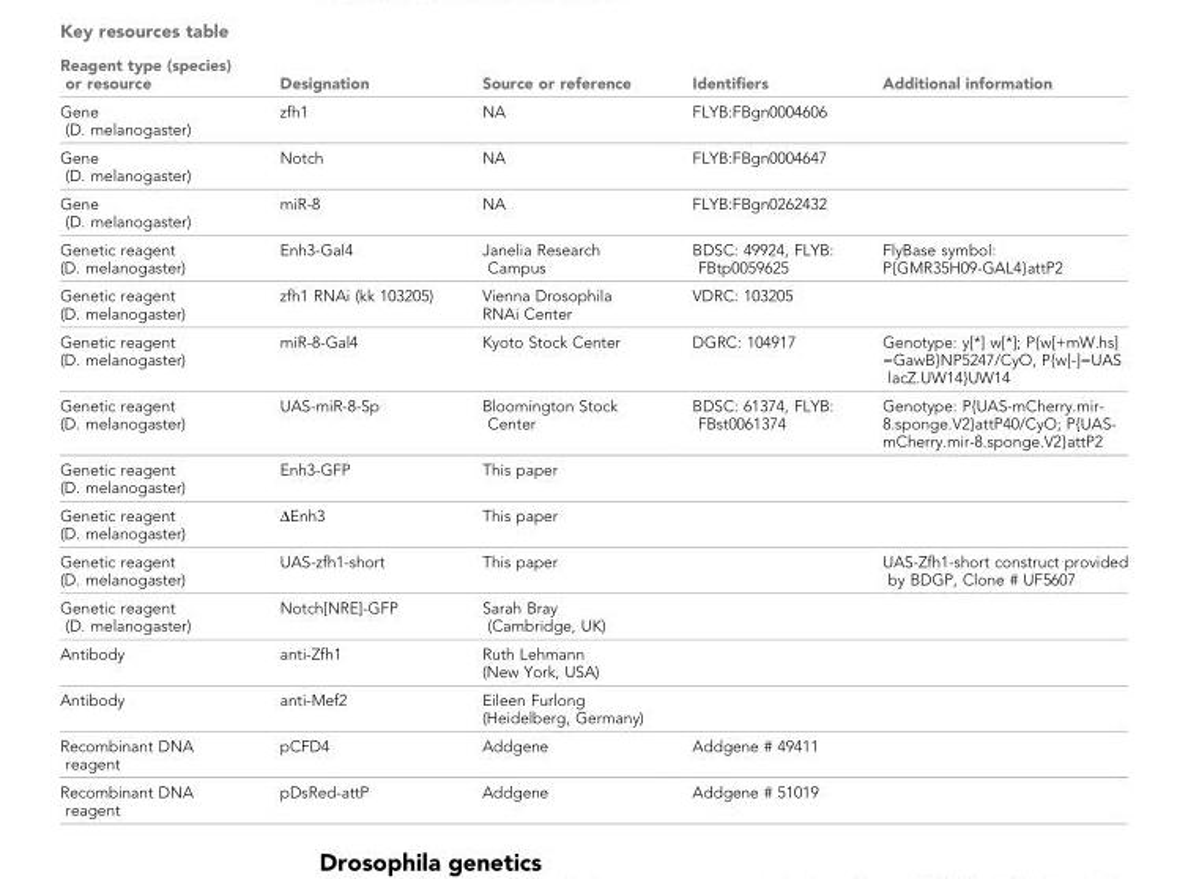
<table><thead><tr><td>Reagent type (species) or resource</td><td>Designation</td><td>Source or reference</td><td>Identifiers</td><td>Additional information</td></tr></thead><tbody><tr><td>Gene (D. melanogaster)</td><td>zfh1</td><td>NA</td><td>FLYB:FBgn0004606</td><td></td></tr><tr><td>Gene (D. melanogaster)</td><td>Notch</td><td>NA</td><td>FLYB:FBgn0004647</td><td></td></tr><tr><td>Gene (D. melanogaster)</td><td>miR-8</td><td>NA</td><td>FLYB:FBgn0262432</td><td></td></tr><tr><td>Genetic reagent (D. melanogaster)</td><td>Enh3-Gal4</td><td>Janelia Research Campus</td><td>BDSC: 49924, FLYB: FBtp0059625</td><td>FlyBase symbol: P{GMR35H09-GAL4}attP2</td></tr><tr><td>Genetic reagent (D. melanogaster)</td><td>zfh1 RNAi (kk 103205)</td><td>Vienna Drosophila RNAi Center</td><td>VDRC: 103205</td><td></td></tr><tr><td>Genetic reagent (D. melanogaster)</td><td>miR-8-Gal4</td><td>Kyoto Stock Center</td><td>DGRC: 104917</td><td>Genotype: y[*] w[*]; P{w[+mW.hs] =GawB}NP5247/CyO, P{w[-]=UAS lacZ.UW14}UW14</td></tr><tr><td>Genetic reagent (D. melanogaster)</td><td>UAS-miR-8-Sp</td><td>Bloomington Stock Center</td><td>BDSC: 61374, FLYB: FBst0061374</td><td>Genotype: P{UAS-mCherry.mir- 8.sponge.V2}attP40/CyO; P{UAS- mCherry.mir-8.sponge.V2}attP2</td></tr><tr><td>Genetic reagent (D. melanogaster)</td><td>Enh3-GFP</td><td>This paper</td><td></td><td></td></tr><tr><td>Genetic reagent (D. melanogaster)</td><td>∆Enh3</td><td>This paper</td><td></td><td></td></tr><tr><td>Genetic reagent (D. melanogaster)</td><td>UAS-zfh1-short</td><td>This paper</td><td></td><td>UAS-Zfh1-short construct provided by BDGP, Clone # UF5607</td></tr><tr><td>Genetic reagent (D. melanogaster)</td><td>Notch[NRE]-GFP</td><td>Sarah Bray (Cambridge, UK)</td><td></td><td></td></tr><tr><td>Antibody</td><td>anti-Zfh1</td><td>Ruth Lehmann (New York, USA)</td><td></td><td></td></tr><tr><td>Antibody</td><td>anti-Mef2</td><td>Eileen Furlong (Heidelberg, Germany)</td><td></td><td></td></tr><tr><td>Recombinant DNA reagent</td><td>pCFD4</td><td>Addgene</td><td>Addgene # 49411</td><td></td></tr><tr><td>Recombinant DNA reagent</td><td>pDsRed-attP</td><td>Addgene</td><td>Addgene # 51019</td><td></td></tr></tbody></table>